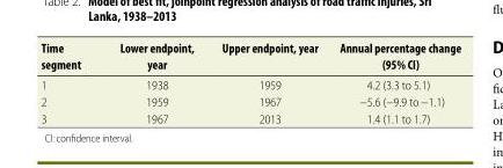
<table><thead><tr><td>Time segment</td><td>Lower endpoint, year</td><td>Upper endpoint, year</td><td>Annual percentage change (95% CI)</td></tr></thead><tbody><tr><td>1</td><td>1938</td><td>1959</td><td>4.2 (3.3 to 5.1)</td></tr><tr><td>2</td><td>1959</td><td>1967</td><td>−5.6 (−9.9 to −1.1)</td></tr><tr><td>3</td><td>1967</td><td>2013</td><td>1.4 (1.1 to 1.7)</td></tr></tbody></table>